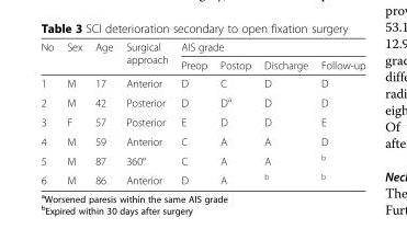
<table><thead><tr><td rowspan="2">No</td><td rowspan="2">Sex</td><td rowspan="2">Age</td><td rowspan="2">Surgical approach</td><td colspan="4">AIS grade</td></tr><tr><td>Preop</td><td>Postop</td><td>Discharge</td><td>Follow-up</td></tr></thead><tbody><tr><td>1</td><td>M</td><td>17</td><td>Anterior</td><td>D</td><td>C</td><td>D</td><td>D</td></tr><tr><td>2</td><td>M</td><td>42</td><td>Posterior</td><td>D</td><td>D<sup>a</sup></td><td>D</td><td>D</td></tr><tr><td>3</td><td>F</td><td>57</td><td>Posterior</td><td>E</td><td>D</td><td>D</td><td>E</td></tr><tr><td>4</td><td>M</td><td>59</td><td>Anterior</td><td>C</td><td>A</td><td>A</td><td>D</td></tr><tr><td>5</td><td>M</td><td>87</td><td>360°</td><td>C</td><td>A</td><td>A</td><td><sup>b</sup></td></tr><tr><td>6</td><td>M</td><td>86</td><td>Anterior</td><td>D</td><td>A</td><td><sup>b</sup></td><td><sup>b</sup></td></tr></tbody></table>